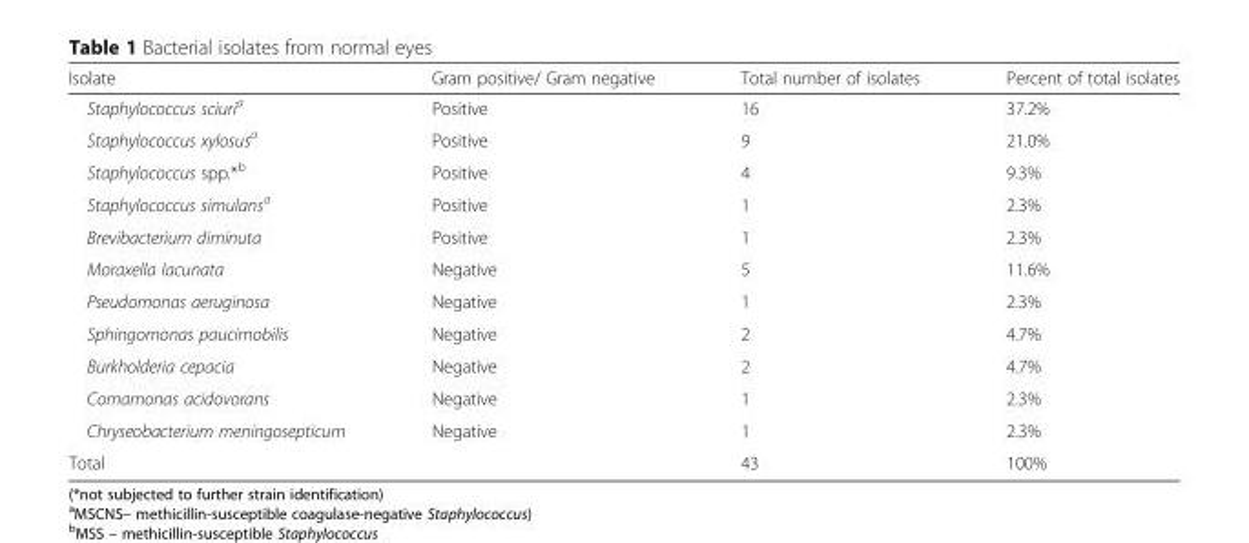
<table><thead><tr><td>Isolate</td><td>Gram positive/ Gram negative</td><td>Total number of isolates</td><td>Percent of total isolates</td></tr></thead><tbody><tr><td>Staphylococcus sciuri<sup>a</sup></td><td>Positive</td><td>16</td><td>37.2%</td></tr><tr><td>Staphylococcus xylosus<sup>a</sup></td><td>Positive</td><td>9</td><td>21.0%</td></tr><tr><td>Staphylococcus spp.*<sup>b</sup></td><td>Positive</td><td>4</td><td>9.3%</td></tr><tr><td>Staphylococcus simulans<sup>a</sup></td><td>Positive</td><td>1</td><td>2.3%</td></tr><tr><td>Brevibacterium diminuta</td><td>Positive</td><td>1</td><td>2.3%</td></tr><tr><td>Moraxella lacunata</td><td>Negative</td><td>5</td><td>11.6%</td></tr><tr><td>Pseudomonas aeruginosa</td><td>Negative</td><td>1</td><td>2.3%</td></tr><tr><td>Sphingomonas paucimobilis</td><td>Negative</td><td>2</td><td>4.7%</td></tr><tr><td>Burkholderia cepacia</td><td>Negative</td><td>2</td><td>4.7%</td></tr><tr><td>Comamonas acidovorans</td><td>Negative</td><td>1</td><td>2.3%</td></tr><tr><td>Chryseobacterium meningosepticum</td><td>Negative</td><td>1</td><td>2.3%</td></tr><tr><td>Total</td><td></td><td>43</td><td>100%</td></tr></tbody></table>